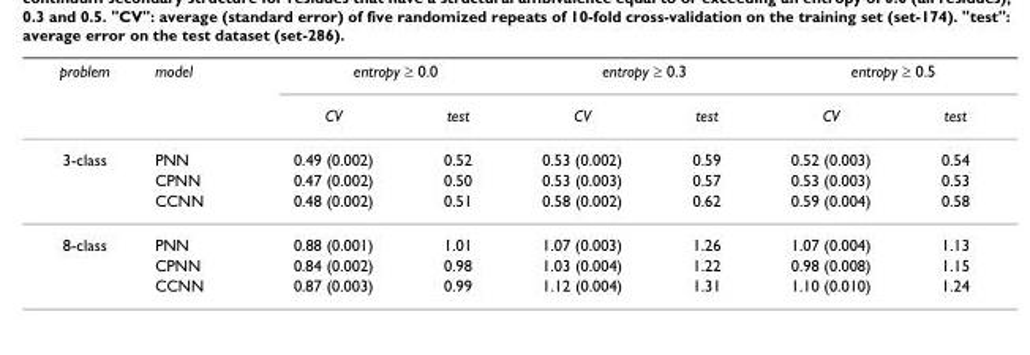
<table><thead><tr><td rowspan="2">problem</td><td rowspan="2">model</td><td colspan="2">entropy ≥ 0.0</td><td colspan="2">entropy ≥ 0.3</td><td colspan="2">entropy ≥ 0.5</td></tr><tr><td>CV</td><td>test</td><td>CV</td><td>test</td><td>CV</td><td>test</td></tr></thead><tbody><tr><td rowspan="3">3-class</td><td>PNN</td><td>0.49 (0.002)</td><td>0.52</td><td>0.53 (0.002)</td><td>0.59</td><td>0.52 (0.003)</td><td>0.54</td></tr><tr><td>CPNN</td><td>0.47 (0.002)</td><td>0.50</td><td>0.53 (0.003)</td><td>0.57</td><td>0.53 (0.003)</td><td>0.53</td></tr><tr><td>CCNN</td><td>0.48 (0.002)</td><td>0.51</td><td>0.58 (0.002)</td><td>0.62</td><td>0.59 (0.004)</td><td>0.58</td></tr><tr><td rowspan="3">8-class</td><td>PNN</td><td>0.88 (0.001)</td><td>1.01</td><td>1.07 (0.003)</td><td>1.26</td><td>1.07 (0.004)</td><td>1.13</td></tr><tr><td>CPNN</td><td>0.84 (0.002)</td><td>0.98</td><td>1.03 (0.004)</td><td>1.22</td><td>0.98 (0.008)</td><td>1.15</td></tr><tr><td>CCNN</td><td>0.87 (0.003)</td><td>0.99</td><td>1.12 (0.004)</td><td>1.31</td><td>1.10 (0.010)</td><td>1.24</td></tr></tbody></table>